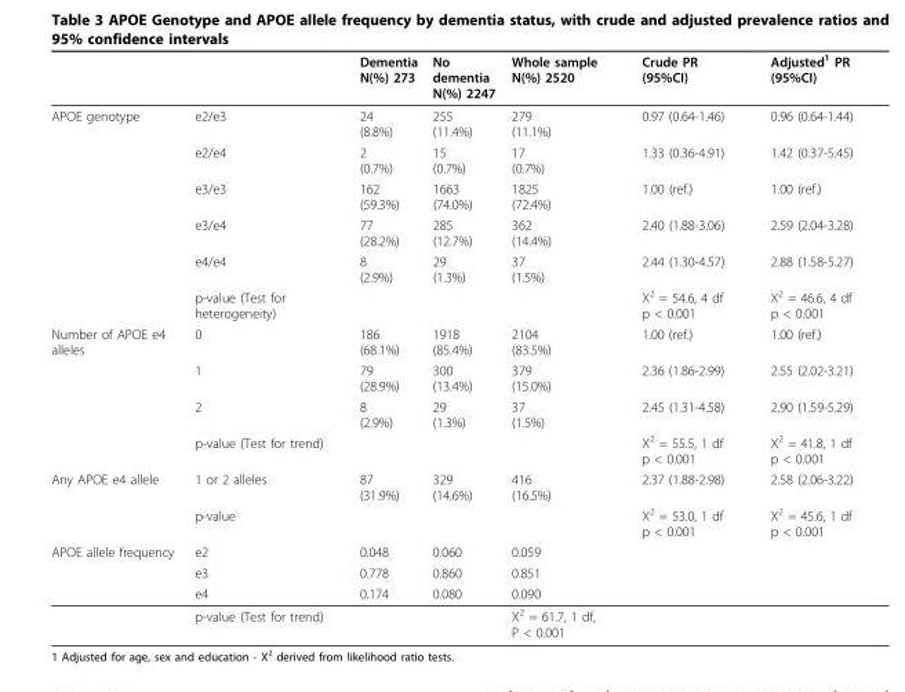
<table><thead><tr><td></td><td></td><td>Dementia N(%) 273</td><td>No dementia N(%) 2247</td><td>Whole sample N(%) 2520</td><td>Crude PR (95%CI)</td><td>Adjusted<sup>1</sup> PR (95%CI)</td></tr></thead><tbody><tr><td rowspan="6">APOE genotype</td><td>e2/e3</td><td>24 (8.8%)</td><td>255 (11.4%)</td><td>279 (11.1%)</td><td>0.97 (0.64-1.46)</td><td>0.96 (0.64-1.44)</td></tr><tr><td>e2/e4</td><td>2 (0.7%)</td><td>15 (0.7%)</td><td>17 (0.7%)</td><td>1.33 (0.36-4.91)</td><td>1.42 (0.37-5.45)</td></tr><tr><td>e3/e3</td><td>162 (59.3%)</td><td>1663 (74.0%)</td><td>1825 (72.4%)</td><td>1.00 (ref.)</td><td>1.00 (ref.)</td></tr><tr><td>e3/e4</td><td>77 (28.2%)</td><td>285 (12.7%)</td><td>362 (14.4%)</td><td>2.40 (1.88-3.06)</td><td>2.59 (2.04-3.28)</td></tr><tr><td>e4/e4</td><td>8 (2.9%)</td><td>29 (1.3%)</td><td>37 (1.5%)</td><td>2.44 (1.30-4.57)</td><td>2.88 (1.58-5.27)</td></tr><tr><td>p-value (Test for heterogeneity)</td><td></td><td></td><td></td><td>X<sup>2</sup> = 54.6, 4 df p &lt; 0.001</td><td>X<sup>2</sup> = 46.6, 4 df p &lt; 0.001</td></tr><tr><td rowspan="4">Number of APOE e4 alleles</td><td>0</td><td>186 (68.1%)</td><td>1918 (85.4%)</td><td>2104 (83.5%)</td><td>1.00 (ref.)</td><td>1.00 (ref.)</td></tr><tr><td>1</td><td>79 (28.9%)</td><td>300 (13.4%)</td><td>379 (15.0%)</td><td>2.36 (1.86-2.99)</td><td>2.55 (2.02-3.21)</td></tr><tr><td>2</td><td>8 (2.9%)</td><td>29 (1.3%)</td><td>37 (1.5%)</td><td>2.45 (1.31-4.58)</td><td>2.90 (1.59-5.29)</td></tr><tr><td>p-value (Test for trend)</td><td></td><td></td><td></td><td>X<sup>2</sup> = 55.5, 1 df p &lt; 0.001</td><td>X<sup>2</sup> = 41.8, 1 df p &lt; 0.001</td></tr><tr><td rowspan="2">Any APOE e4 allele</td><td>1 or 2 alleles</td><td>87 (31.9%)</td><td>329 (14.6%)</td><td>416 (16.5%)</td><td>2.37 (1.88-2.98)</td><td>2.58 (2.06-3.22)</td></tr><tr><td>p-value</td><td></td><td></td><td></td><td>X<sup>2</sup> = 53.0, 1 df p &lt; 0.001</td><td>X<sup>2</sup> = 45.6, 1 df p &lt; 0.001</td></tr><tr><td rowspan="4">APOE allele frequency</td><td>e2</td><td>0.048</td><td>0.060</td><td>0.059</td><td></td><td></td></tr><tr><td>e3</td><td>0.778</td><td>0.860</td><td>0.851</td><td></td><td></td></tr><tr><td>e4</td><td>0.174</td><td>0.080</td><td>0.090</td><td></td><td></td></tr><tr><td>p-value (Test for trend)</td><td></td><td></td><td>X<sup>2</sup> = 61.7, 1 df, P &lt; 0.001</td><td></td><td></td></tr></tbody></table>